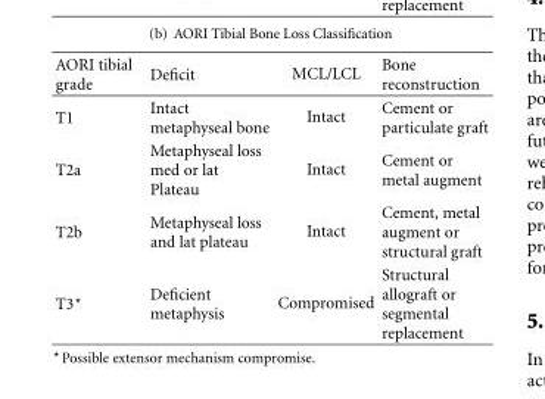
<table><thead><tr><td>AORI tibial grade</td><td>Deficit</td><td>MCL/LCL</td><td>Bone reconstruction</td></tr></thead><tbody><tr><td>T1</td><td>Intact metaphyseal bone</td><td>Intact</td><td>Cement or particulate graft</td></tr><tr><td>T2a</td><td>Metaphyseal loss med or lat Plateau</td><td>Intact</td><td>Cement or metal augment</td></tr><tr><td>T2b</td><td>Metaphyseal loss and lat plateau</td><td>Intact</td><td>Cement, metal augment or structural graft</td></tr><tr><td>T3<sup>⋆</sup></td><td>Deficient metaphysis</td><td>Compromised</td><td>Structural allograft or segmental replacement</td></tr></tbody></table>